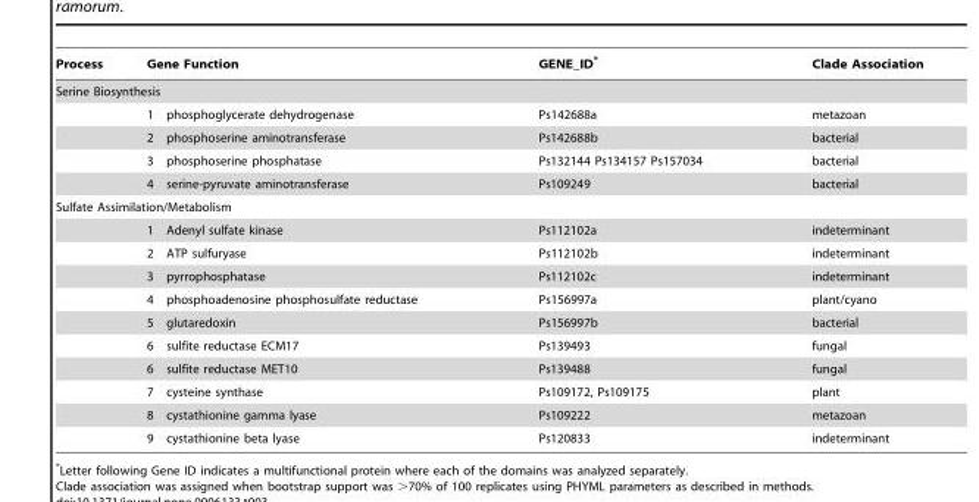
<table><thead><tr><td>Process</td><td>Gene Function</td><td>GENE_ID*</td><td>Clade Association</td></tr></thead><tbody><tr><td colspan="4">Serine Biosynthesis</td></tr><tr><td></td><td>1 phosphoglycerate dehydrogenase</td><td>Ps142688a</td><td>metazoan</td></tr><tr><td></td><td>2 phosphoserine aminotransferase</td><td>Ps142688b</td><td>bacterial</td></tr><tr><td></td><td>3 phosphoserine phosphatase</td><td>Ps132144 Ps134157 Ps157034</td><td>bacterial</td></tr><tr><td></td><td>4 serine-pyruvate aminotransferase</td><td>Ps109249</td><td>bacterial</td></tr><tr><td colspan="4">Sulfate Assimilation/Metabolism</td></tr><tr><td></td><td>1 Adenyl sulfate kinase</td><td>Ps112102a</td><td>indeterminant</td></tr><tr><td></td><td>2 ATP sulfuryase</td><td>Ps112102b</td><td>indeterminant</td></tr><tr><td></td><td>3 pyrrophosphatase</td><td>Ps112102c</td><td>indeterminant</td></tr><tr><td></td><td>4 phosphoadenosine phosphosulfate reductase</td><td>Ps156997a</td><td>plant/cyano</td></tr><tr><td></td><td>5 glutaredoxin</td><td>Ps156997b</td><td>bacterial</td></tr><tr><td></td><td>6 sulfite reductase ECM17</td><td>Ps139493</td><td>fungal</td></tr><tr><td></td><td>6 sulfite reductase MET10</td><td>Ps139488</td><td>fungal</td></tr><tr><td></td><td>7 cysteine synthase</td><td>Ps109172, Ps109175</td><td>plant</td></tr><tr><td></td><td>8 cystathionine gamma lyase</td><td>Ps109222</td><td>metazoan</td></tr><tr><td></td><td>9 cystathionine beta lyase</td><td>Ps120833</td><td>indeterminant</td></tr></tbody></table>